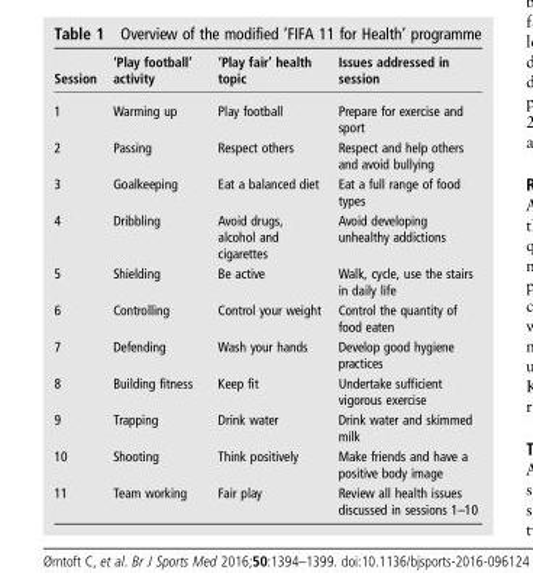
<table><thead><tr><td>Session</td><td>‘Play football’ activity</td><td>‘Play fair’ health topic</td><td>Issues addressed in session</td></tr></thead><tbody><tr><td>1</td><td>Warming up</td><td>Play football</td><td>Prepare for exercise and sport</td></tr><tr><td>2</td><td>Passing</td><td>Respect others</td><td>Respect and help others and avoid bullying</td></tr><tr><td>3</td><td>Goalkeeping</td><td>Eat a balanced diet</td><td>Eat a full range of food types</td></tr><tr><td>4</td><td>Dribbling</td><td>Avoid drugs, alcohol and cigarettes</td><td>Avoid developing unhealthy addictions</td></tr><tr><td>5</td><td>Shielding</td><td>Be active</td><td>Walk, cycle, use the stairs in daily life</td></tr><tr><td>6</td><td>Controlling</td><td>Control your weight</td><td>Control the quantity of food eaten</td></tr><tr><td>7</td><td>Defending</td><td>Wash your hands</td><td>Develop good hygiene practices</td></tr><tr><td>8</td><td>Building fitness</td><td>Keep fit</td><td>Undertake sufficient vigorous exercise</td></tr><tr><td>9</td><td>Trapping</td><td>Drink water</td><td>Drink water and skimmed milk</td></tr><tr><td>10</td><td>Shooting</td><td>Think positively</td><td>Make friends and have a positive body image</td></tr><tr><td>11</td><td>Team working</td><td>Fair play</td><td>Review all health issues discussed in sessions 1–10</td></tr></tbody></table>